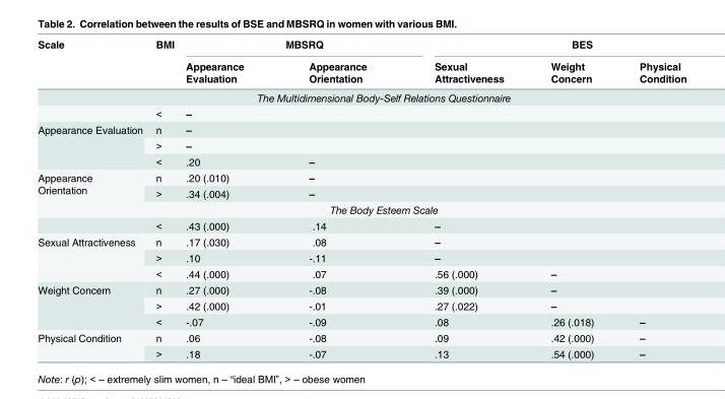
<table><thead><tr><td rowspan="2">Scale</td><td rowspan="2">BMI</td><td colspan="2">MBSRQ</td><td colspan="3">BES</td></tr><tr><td>Appearance Evaluation</td><td>Appearance Orientation</td><td>Sexual Attractiveness</td><td>Weight Concern</td><td>Physical Condition</td></tr></thead><tbody><tr><td colspan="7">The Multidimensional Body-Self Relations Questionnaire</td></tr><tr><td></td><td>&lt;</td><td>–</td><td></td><td></td><td></td><td></td></tr><tr><td rowspan="3">Appearance Evaluation</td><td>n</td><td>–</td><td></td><td></td><td></td><td></td></tr><tr><td>&gt;</td><td>–</td><td></td><td></td><td></td><td></td></tr><tr><td>&lt;</td><td>.20</td><td>–</td><td></td><td></td><td></td></tr><tr><td rowspan="2">Appearance Orientation</td><td>n</td><td>.20 (.010)</td><td>–</td><td></td><td></td><td></td></tr><tr><td>&gt;</td><td>.34 (.004)</td><td>–</td><td></td><td></td><td></td></tr><tr><td colspan="7">The Body Esteem Scale</td></tr><tr><td></td><td>&lt;</td><td>.43 (.000)</td><td>.14</td><td>–</td><td></td><td></td></tr><tr><td rowspan="3">Sexual Attractiveness</td><td>n</td><td>.17 (.030)</td><td>.08</td><td>–</td><td></td><td></td></tr><tr><td>&gt;</td><td>.10</td><td>-.11</td><td>–</td><td></td><td></td></tr><tr><td>&lt;</td><td>.44 (.000)</td><td>.07</td><td>.56 (.000)</td><td>–</td><td></td></tr><tr><td rowspan="3">Weight Concern</td><td>n</td><td>.27 (.000)</td><td>-.08</td><td>.39 (.000)</td><td>–</td><td></td></tr><tr><td>&gt;</td><td>.42 (.000)</td><td>-.01</td><td>.27 (.022)</td><td>–</td><td></td></tr><tr><td>&lt;</td><td>-.07</td><td>-.09</td><td>.08</td><td>.26 (.018)</td><td>–</td></tr><tr><td rowspan="2">Physical Condition</td><td>n</td><td>.06</td><td>-.08</td><td>.09</td><td>.42 (.000)</td><td>–</td></tr><tr><td>&gt;</td><td>.18</td><td>-.07</td><td>.13</td><td>.54 (.000)</td><td>–</td></tr></tbody></table>